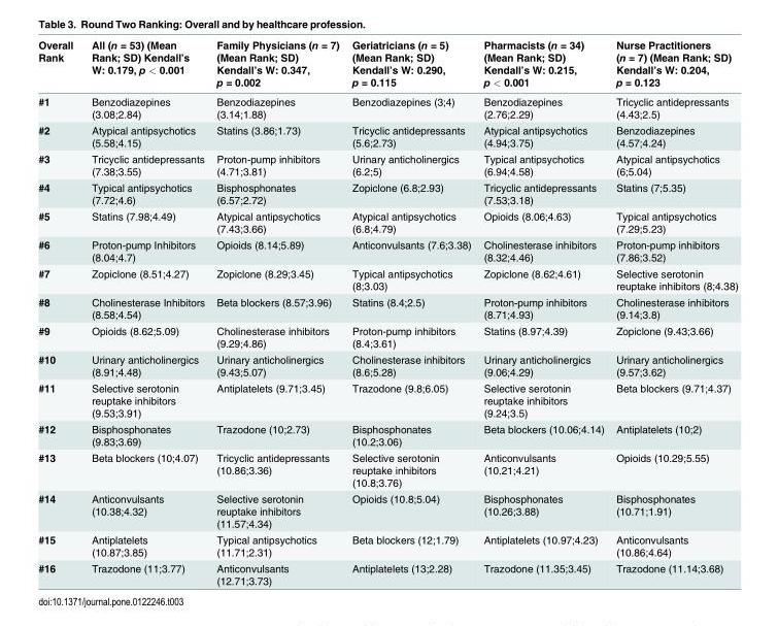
<table><thead><tr><td>Overall Rank</td><td>All (n = 53) (Mean Rank; SD) Kendall’s W: 0.179, p &lt; 0.001</td><td>Family Physicians (n = 7) (Mean Rank; SD) Kendall’s W: 0.347, p = 0.002</td><td>Geriatricians (n = 5) (Mean Rank; SD) Kendall’s W: 0.290, p = 0.115</td><td>Pharmacists (n = 34) (Mean Rank; SD) Kendall’s W: 0.215, p &lt; 0.001</td><td>Nurse Practitioners (n = 7) (Mean Rank; SD) Kendall’s W: 0.204, p = 0.123</td></tr></thead><tbody><tr><td>#1</td><td>Benzodiazepines (3.08;2.84)</td><td>Benzodiazepines (3.14;1.88)</td><td>Benzodiazepines (3;4)</td><td>Benzodiazepines (2.76;2.29)</td><td>Tricyclic antidepressants (4.43;2.5)</td></tr><tr><td>#2</td><td>Atypical antipsychotics (5.58;4.15)</td><td>Statins (3.86;1.73)</td><td>Tricyclic antidepressants (5.6;2.73)</td><td>Atypical antipsychotics (4.94;3.75)</td><td>Benzodiazepines (4.57;4.24)</td></tr><tr><td>#3</td><td>Tricyclic antidepressants (7.38;3.55)</td><td>Proton-pump inhibitors (4.71;3.81)</td><td>Urinary anticholinergics (6.2;5)</td><td>Typical antipsychotics (6.94;4.58)</td><td>Atypical antipsychotics (6;5.04)</td></tr><tr><td>#4</td><td>Typical antipsychotics (7.72;4.6)</td><td>Bisphosphonates (6.57;2.72)</td><td>Zopiclone (6.8;2.93)</td><td>Tricyclic antidepressants (7.53;3.18)</td><td>Statins (7;5.35)</td></tr><tr><td>#5</td><td>Statins (7.98;4.49)</td><td>Atypical antipsychotics (7.43;3.66)</td><td>Atypical antipsychotics (6.8;4.79)</td><td>Opioids (8.06;4.63)</td><td>Typical antipsychotics (7.29;5.23)</td></tr><tr><td>#6</td><td>Proton-pump Inhibitors (8.04;4.7)</td><td>Opioids (8.14;5.89)</td><td>Anticonvulsants (7.6;3.38)</td><td>Cholinesterase inhibitors (8.32;4.46)</td><td>Proton-pump inhibitors (7.86;3.52)</td></tr><tr><td>#7</td><td>Zopiclone (8.51;4.27)</td><td>Zopiclone (8.29;3.45)</td><td>Typical antipsychotics (8;3.03)</td><td>Zopiclone (8.62;4.61)</td><td>Selective serotonin reuptake inhibitors (8;4.38)</td></tr><tr><td>#8</td><td>Cholinesterase Inhibitors (8.58;4.54)</td><td>Beta blockers (8.57;3.96)</td><td>Statins (8.4;2.5)</td><td>Proton-pump inhibitors (8.71;4.93)</td><td>Cholinesterase inhibitors (9.14;3.8)</td></tr><tr><td>#9</td><td>Opioids (8.62;5.09)</td><td>Cholinesterase inhibitors (9.29;4.86)</td><td>Proton-pump inhibitors (8.4;3.61)</td><td>Statins (8.97;4.39)</td><td>Zopiclone (9.43;3.66)</td></tr><tr><td>#10</td><td>Urinary anticholinergics (8.91;4.48)</td><td>Urinary anticholinergics (9.43;5.07)</td><td>Cholinesterase inhibitors (8.6;5.28)</td><td>Urinary anticholinergics (9.06;4.29)</td><td>Urinary anticholinergics (9.57;3.62)</td></tr><tr><td>#11</td><td>Selective serotonin reuptake inhibitors (9.53;3.91)</td><td>Antiplatelets (9.71;3.45)</td><td>Trazodone (9.8;6.05)</td><td>Selective serotonin reuptake inhibitors (9.24;3.5)</td><td>Beta blockers (9.71;4.37)</td></tr><tr><td>#12</td><td>Bisphosphonates (9.83;3.69)</td><td>Trazodone (10;2.73)</td><td>Bisphosphonates (10.2;3.06)</td><td>Beta blockers (10.06;4.14)</td><td>Antiplatelets (10;2)</td></tr><tr><td>#13</td><td>Beta blockers (10;4.07)</td><td>Tricyclic antidepressants (10.86;3.36)</td><td>Selective serotonin reuptake inhibitors (10.8;3.76)</td><td>Anticonvulsants (10.21;4.21)</td><td>Opioids (10.29;5.55)</td></tr><tr><td>#14</td><td>Anticonvulsants (10.38;4.32)</td><td>Selective serotonin reuptake inhibitors (11.57;4.34)</td><td>Opioids (10.8;5.04)</td><td>Bisphosphonates (10.26;3.88)</td><td>Bisphosphonates (10.71;1.91)</td></tr><tr><td>#15</td><td>Antiplatelets (10.87;3.85)</td><td>Typical antipsychotics (11.71;2.31)</td><td>Beta blockers (12;1.79)</td><td>Antiplatelets (10.97;4.23)</td><td>Anticonvulsants (10.86;4.64)</td></tr><tr><td>#16</td><td>Trazodone (11;3.77)</td><td>Anticonvulsants (12.71;3.73)</td><td>Antiplatelets (13;2.28)</td><td>Trazodone (11.35;3.45)</td><td>Trazodone (11.14;3.68)</td></tr></tbody></table>